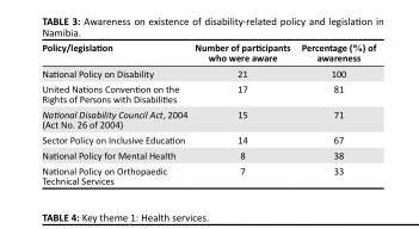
<table><thead><tr><td>Policy/legislation</td><td>Number of participants who were aware</td><td>Percentage (%) of awareness</td></tr></thead><tbody><tr><td>National Policy on Disability</td><td>21</td><td>100</td></tr><tr><td>United Nations Convention on the Rights of Persons with Disabilities</td><td>17</td><td>81</td></tr><tr><td>National Disability Council Act, 2004 (Act No. 26 of 2004)</td><td>15</td><td>71</td></tr><tr><td>Sector Policy on Inclusive Education</td><td>14</td><td>67</td></tr><tr><td>National Policy for Mental Health</td><td>8</td><td>38</td></tr><tr><td>National Policy on Orthopaedic Technical Services</td><td>7</td><td>33</td></tr></tbody></table>